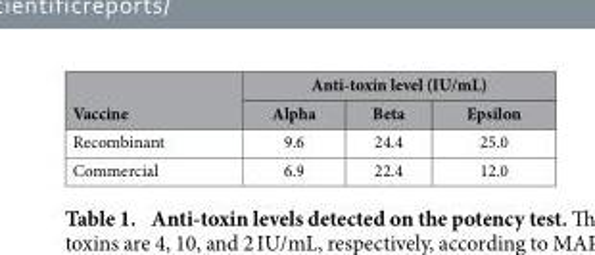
<table><thead><tr><td rowspan="2">Vaccine</td><td colspan="3">Anti-toxin level (IU/mL)</td></tr><tr><td>Alpha</td><td>Beta</td><td>Epsilon</td></tr></thead><tbody><tr><td>Recombinant</td><td>9.6</td><td>24.4</td><td>25.0</td></tr><tr><td>Commercial</td><td>6.9</td><td>22.4</td><td>12.0</td></tr></tbody></table>